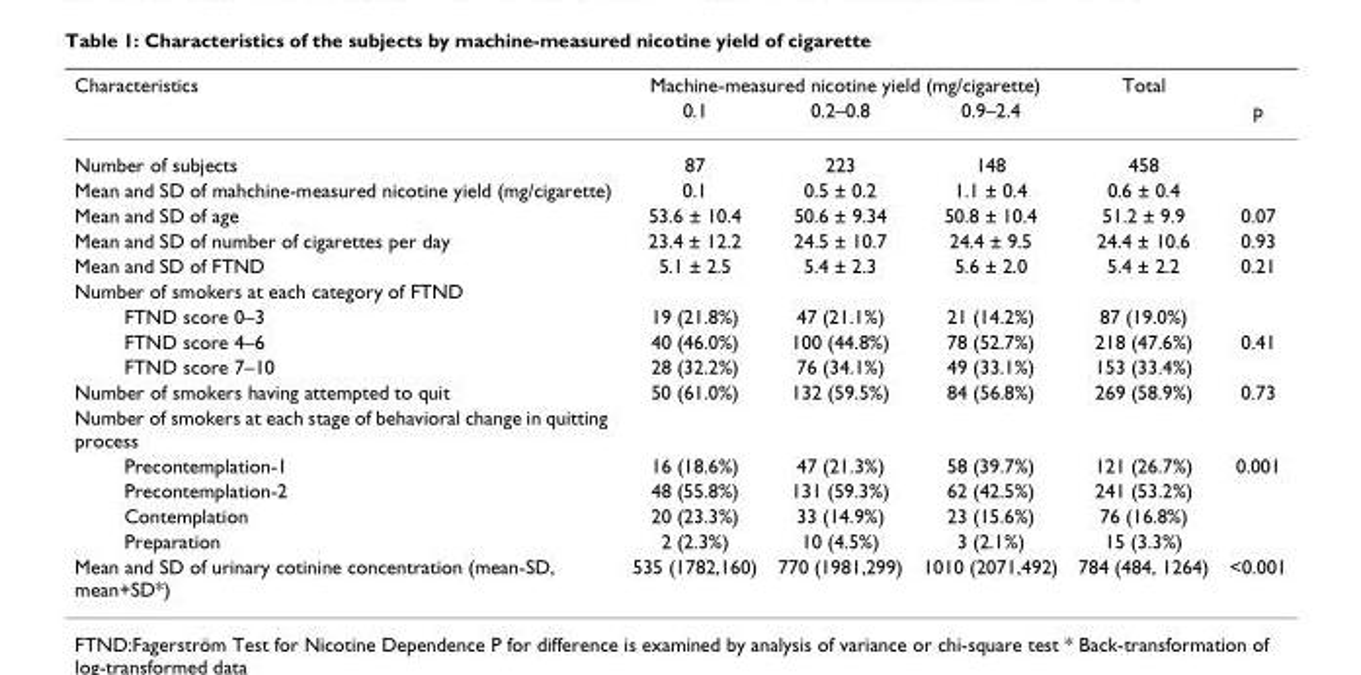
<table><thead><tr><td rowspan="2">Characteristics</td><td colspan="3">Machine-measured nicotine yield (mg/cigarette)</td><td rowspan="2">Total</td><td rowspan="2">p</td></tr><tr><td>0.1</td><td>0.2–0.8</td><td>0.9–2.4</td></tr></thead><tbody><tr><td>Number of subjects</td><td>87</td><td>223</td><td>148</td><td>458</td><td></td></tr><tr><td>Mean and SD of mahchine-measured nicotine yield (mg/cigarette)</td><td>0.1</td><td>0.5 ± 0.2</td><td>1.1 ± 0.4</td><td>0.6 ± 0.4</td><td></td></tr><tr><td>Mean and SD of age</td><td>53.6 ± 10.4</td><td>50.6 ± 9.34</td><td>50.8 ± 10.4</td><td>51.2 ± 9.9</td><td>0.07</td></tr><tr><td>Mean and SD of number of cigarettes per day</td><td>23.4 ± 12.2</td><td>24.5 ± 10.7</td><td>24.4 ± 9.5</td><td>24.4 ± 10.6</td><td>0.93</td></tr><tr><td>Mean and SD of FTND</td><td>5.1 ± 2.5</td><td>5.4 ± 2.3</td><td>5.6 ± 2.0</td><td>5.4 ± 2.2</td><td>0.21</td></tr><tr><td colspan="6">Number of smokers at each category of FTND</td></tr><tr><td>FTND score 0–3</td><td>19 (21.8%)</td><td>47 (21.1%)</td><td>21 (14.2%)</td><td>87 (19.0%)</td><td></td></tr><tr><td>FTND score 4–6</td><td>40 (46.0%)</td><td>100 (44.8%)</td><td>78 (52.7%)</td><td>218 (47.6%)</td><td>0.41</td></tr><tr><td>FTND score 7–10</td><td>28 (32.2%)</td><td>76 (34.1%)</td><td>49 (33.1%)</td><td>153 (33.4%)</td><td></td></tr><tr><td>Number of smokers having attempted to quit</td><td>50 (61.0%)</td><td>132 (59.5%)</td><td>84 (56.8%)</td><td>269 (58.9%)</td><td>0.73</td></tr><tr><td colspan="6">Number of smokers at each stage of behavioral change in quitting process</td></tr><tr><td>Precontemplation-1</td><td>16 (18.6%)</td><td>47 (21.3%)</td><td>58 (39.7%)</td><td>121 (26.7%)</td><td>0.001</td></tr><tr><td>Precontemplation-2</td><td>48 (55.8%)</td><td>131 (59.3%)</td><td>62 (42.5%)</td><td>241 (53.2%)</td><td></td></tr><tr><td>Contemplation</td><td>20 (23.3%)</td><td>33 (14.9%)</td><td>23 (15.6%)</td><td>76 (16.8%)</td><td></td></tr><tr><td>Preparation</td><td>2 (2.3%)</td><td>10 (4.5%)</td><td>3 (2.1%)</td><td>15 (3.3%)</td><td></td></tr><tr><td>Mean and SD of urinary cotinine concentration (mean-SD, mean+SD*)</td><td>535 (1782,160)</td><td>770 (1981,299)</td><td>1010 (2071,492)</td><td>784 (484, 1264)</td><td>&lt;0.001</td></tr></tbody></table>